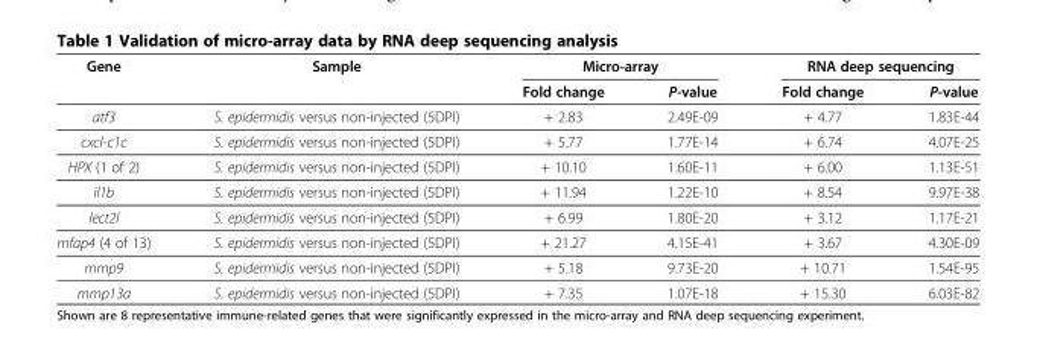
<table><thead><tr><td rowspan="2">Gene</td><td rowspan="2">Sample</td><td colspan="2">Micro-array</td><td colspan="2">RNA deep sequencing</td></tr><tr><td>Fold change</td><td>P-value</td><td>Fold change</td><td>P-value</td></tr></thead><tbody><tr><td>atf3</td><td>S. epidermidis versus non-injected (5DPI)</td><td>+ 2.83</td><td>2.49E-09</td><td>+ 4.77</td><td>1.83E-44</td></tr><tr><td>cxcl-c1c</td><td>S. epidermidis versus non-injected (5DPI)</td><td>+ 5.77</td><td>1.77E-14</td><td>+ 6.74</td><td>4.07E-25</td></tr><tr><td>HPX (1 of 2)</td><td>S. epidermidis versus non-injected (5DPI)</td><td>+ 10.10</td><td>1.60E-11</td><td>+ 6.00</td><td>1.13E-51</td></tr><tr><td>il1b</td><td>S. epidermidis versus non-injected (5DPI)</td><td>+ 11.94</td><td>1.22E-10</td><td>+ 8.54</td><td>9.97E-38</td></tr><tr><td>lect2l</td><td>S. epidermidis versus non-injected (5DPI)</td><td>+ 6.99</td><td>1.80E-20</td><td>+ 3.12</td><td>1.17E-21</td></tr><tr><td>mfap4 (4 of 13)</td><td>S. epidermidis versus non-injected (5DPI)</td><td>+ 21.27</td><td>4.15E-41</td><td>+ 3.67</td><td>4.30E-09</td></tr><tr><td>mmp9</td><td>S. epidermidis versus non-injected (5DPI)</td><td>+ 5.18</td><td>9.73E-20</td><td>+ 10.71</td><td>1.54E-95</td></tr><tr><td>mmp13a</td><td>S. epidermidis versus non-injected (5DPI)</td><td>+ 7.35</td><td>1.07E-18</td><td>+ 15.30</td><td>6.03E-82</td></tr></tbody></table>